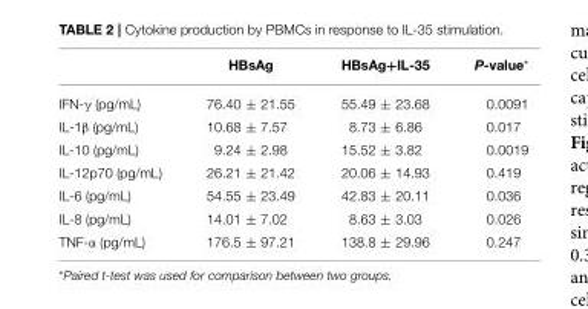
<table><thead><tr><td></td><td>HBsAg</td><td>HBsAg+IL-35</td><td>P-value*</td></tr></thead><tbody><tr><td>IFN-γ (pg/mL)</td><td>76.40 ± 21.55</td><td>55.49 ± 23.68</td><td>0.0091</td></tr><tr><td>IL-1β (pg/mL)</td><td>10.68 ± 7.57</td><td>8.73 ± 6.86</td><td>0.017</td></tr><tr><td>IL-10 (pg/mL)</td><td>9.24 ± 2.98</td><td>15.52 ± 3.82</td><td>0.0019</td></tr><tr><td>IL-12p70 (pg/mL)</td><td>26.21 ± 21.42</td><td>20.06 ± 14.93</td><td>0.419</td></tr><tr><td>IL-6 (pg/mL)</td><td>54.55 ± 23.49</td><td>42.83 ± 20.11</td><td>0.036</td></tr><tr><td>IL-8 (pg/mL)</td><td>14.01 ± 7.02</td><td>8.63 ± 3.03</td><td>0.026</td></tr><tr><td>TNF-α (pg/mL)</td><td>176.5 ± 97.21</td><td>138.8 ± 29.96</td><td>0.247</td></tr></tbody></table>